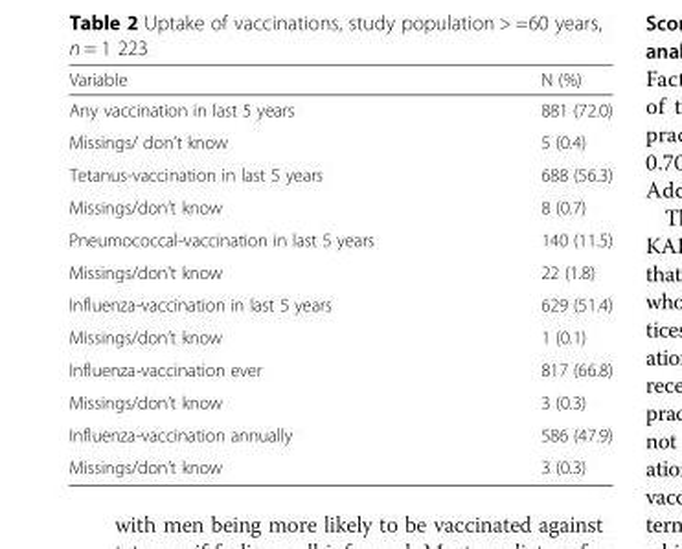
<table><thead><tr><td>Variable</td><td>N (%)</td></tr></thead><tbody><tr><td>Any vaccination in last 5 years</td><td>881 (72.0)</td></tr><tr><td>Missings/ don’t know</td><td>5 (0.4)</td></tr><tr><td>Tetanus-vaccination in last 5 years</td><td>688 (56.3)</td></tr><tr><td>Missings/don’t know</td><td>8 (0.7)</td></tr><tr><td>Pneumococcal-vaccination in last 5 years</td><td>140 (11.5)</td></tr><tr><td>Missings/don’t know</td><td>22 (1.8)</td></tr><tr><td>Influenza-vaccination in last 5 years</td><td>629 (51.4)</td></tr><tr><td>Missings/don’t know</td><td>1 (0.1)</td></tr><tr><td>Influenza-vaccination ever</td><td>817 (66.8)</td></tr><tr><td>Missings/don’t know</td><td>3 (0.3)</td></tr><tr><td>Influenza-vaccination annually</td><td>586 (47.9)</td></tr><tr><td>Missings/don’t know</td><td>3 (0.3)</td></tr></tbody></table>